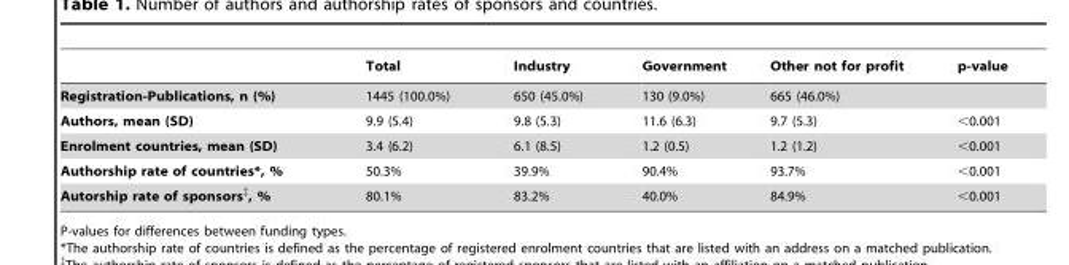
<table><thead><tr><td></td><td>Total</td><td>Industry</td><td>Government</td><td>Other not for profit</td><td>p-value</td></tr></thead><tbody><tr><td>Registration-Publications, n (%)</td><td>1445 (100.0%)</td><td>650 (45.0%)</td><td>130 (9.0%)</td><td>665 (46.0%)</td><td></td></tr><tr><td>Authors, mean (SD)</td><td>9.9 (5.4)</td><td>9.8 (5.3)</td><td>11.6 (6.3)</td><td>9.7 (5.3)</td><td>&lt;0.001</td></tr><tr><td>Enrolment countries, mean (SD)</td><td>3.4 (6.2)</td><td>6.1 (8.5)</td><td>1.2 (0.5)</td><td>1.2 (1.2)</td><td>&lt;0.001</td></tr><tr><td>Authorship rate of countries*, %</td><td>50.3%</td><td>39.9%</td><td>90.4%</td><td>93.7%</td><td>&lt;0.001</td></tr><tr><td>Autorship rate of sponsors‡, %</td><td>80.1%</td><td>83.2%</td><td>40.0%</td><td>84.9%</td><td>&lt;0.001</td></tr></tbody></table>